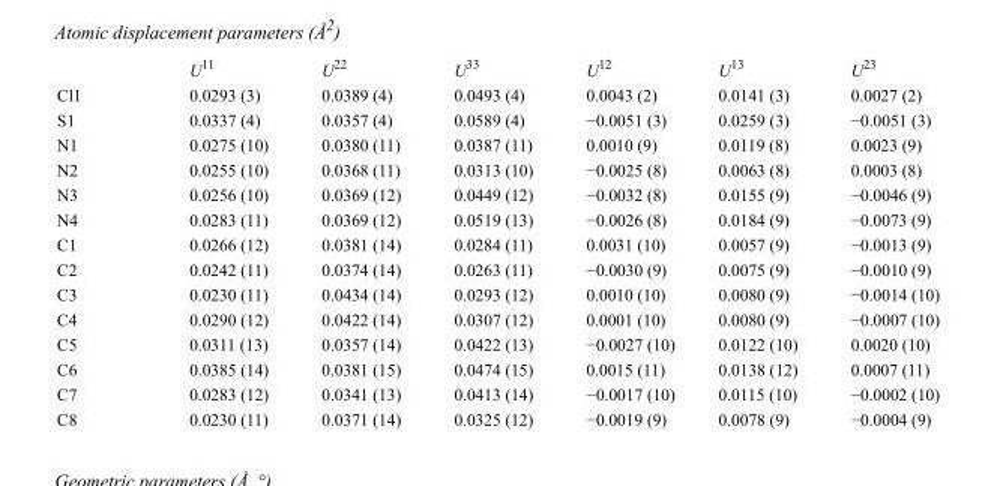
<table><thead><tr><td></td><td>U<sup>11</sup></td><td>U<sup>22</sup></td><td>U<sup>33</sup></td><td>U<sup>12</sup></td><td>U<sup>13</sup></td><td>U<sup>23</sup></td></tr></thead><tbody><tr><td>Cl1</td><td>0.0293 (3)</td><td>0.0389 (4)</td><td>0.0493 (4)</td><td>0.0043 (2)</td><td>0.0141 (3)</td><td>0.0027 (2)</td></tr><tr><td>S1</td><td>0.0337 (4)</td><td>0.0357 (4)</td><td>0.0589 (4)</td><td>−0.0051 (3)</td><td>0.0259 (3)</td><td>−0.0051 (3)</td></tr><tr><td>N1</td><td>0.0275 (10)</td><td>0.0380 (11)</td><td>0.0387 (11)</td><td>0.0010 (9)</td><td>0.0119 (8)</td><td>0.0023 (9)</td></tr><tr><td>N2</td><td>0.0255 (10)</td><td>0.0368 (11)</td><td>0.0313 (10)</td><td>−0.0025 (8)</td><td>0.0063 (8)</td><td>0.0003 (8)</td></tr><tr><td>N3</td><td>0.0256 (10)</td><td>0.0369 (12)</td><td>0.0449 (12)</td><td>−0.0032 (8)</td><td>0.0155 (9)</td><td>−0.0046 (9)</td></tr><tr><td>N4</td><td>0.0283 (11)</td><td>0.0369 (12)</td><td>0.0519 (13)</td><td>−0.0026 (8)</td><td>0.0184 (9)</td><td>−0.0073 (9)</td></tr><tr><td>C1</td><td>0.0266 (12)</td><td>0.0381 (14)</td><td>0.0284 (11)</td><td>0.0031 (10)</td><td>0.0057 (9)</td><td>−0.0013 (9)</td></tr><tr><td>C2</td><td>0.0242 (11)</td><td>0.0374 (14)</td><td>0.0263 (11)</td><td>−0.0030 (9)</td><td>0.0075 (9)</td><td>−0.0010 (9)</td></tr><tr><td>C3</td><td>0.0230 (11)</td><td>0.0434 (14)</td><td>0.0293 (12)</td><td>0.0010 (10)</td><td>0.0080 (9)</td><td>−0.0014 (10)</td></tr><tr><td>C4</td><td>0.0290 (12)</td><td>0.0422 (14)</td><td>0.0307 (12)</td><td>0.0001 (10)</td><td>0.0080 (9)</td><td>−0.0007 (10)</td></tr><tr><td>C5</td><td>0.0311 (13)</td><td>0.0357 (14)</td><td>0.0422 (13)</td><td>−0.0027 (10)</td><td>0.0122 (10)</td><td>0.0020 (10)</td></tr><tr><td>C6</td><td>0.0385 (14)</td><td>0.0381 (15)</td><td>0.0474 (15)</td><td>0.0015 (11)</td><td>0.0138 (12)</td><td>0.0007 (11)</td></tr><tr><td>C7</td><td>0.0283 (12)</td><td>0.0341 (13)</td><td>0.0413 (14)</td><td>−0.0017 (10)</td><td>0.0115 (10)</td><td>−0.0002 (10)</td></tr><tr><td>C8</td><td>0.0230 (11)</td><td>0.0371 (14)</td><td>0.0325 (12)</td><td>−0.0019 (9)</td><td>0.0078 (9)</td><td>−0.0004 (9)</td></tr></tbody></table>